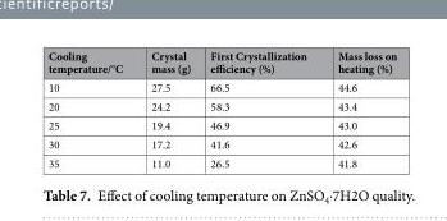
<table><thead><tr><td>Cooling temperature/°C</td><td>Crystal mass (g)</td><td>First Crystallization efficiency (%)</td><td>Mass loss on heating (%)</td></tr></thead><tbody><tr><td>10</td><td>27.5</td><td>66.5</td><td>44.6</td></tr><tr><td>20</td><td>24.2</td><td>58.3</td><td>43.4</td></tr><tr><td>25</td><td>19.4</td><td>46.9</td><td>43.0</td></tr><tr><td>30</td><td>17.2</td><td>41.6</td><td>42.6</td></tr><tr><td>35</td><td>11.0</td><td>26.5</td><td>41.8</td></tr></tbody></table>